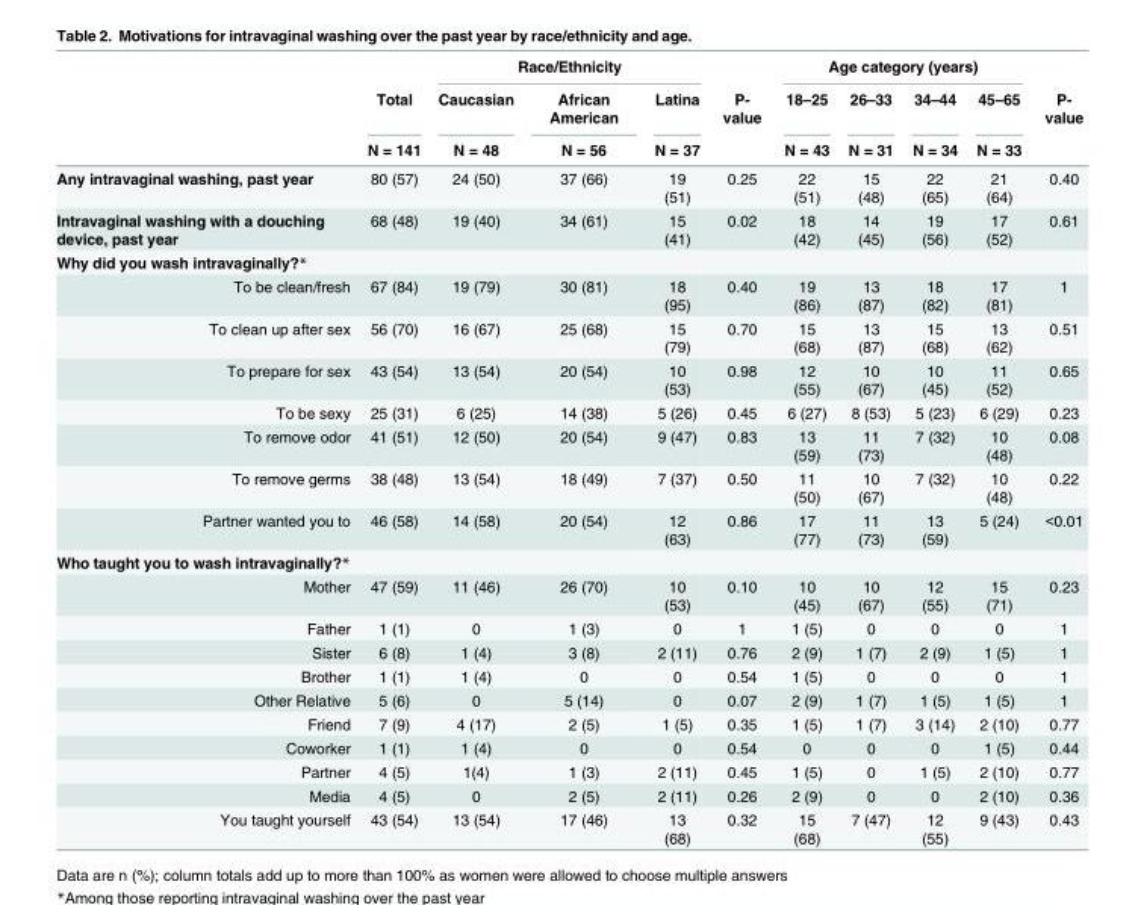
<table><thead><tr><td rowspan="3"></td><td rowspan="3">Total N = 141</td><td colspan="3">Race/Ethnicity</td><td rowspan="3">P- value</td><td colspan="4">Age category (years)</td><td rowspan="3">P- value</td></tr><tr><td rowspan="2">Caucasian N = 48</td><td rowspan="2">African American N = 56</td><td rowspan="2">Latina N = 37</td><td rowspan="2">18–25 N = 43</td><td rowspan="2">26–33 N = 31</td><td rowspan="2">34–44 N = 34</td><td rowspan="2">45–65 N = 33</td></tr><tr></tr></thead><tbody><tr><td>Any intravaginal washing, past year</td><td>80 (57)</td><td>24 (50)</td><td>37 (66)</td><td>19 (51)</td><td>0.25</td><td>22 (51)</td><td>15 (48)</td><td>22 (65)</td><td>21 (64)</td><td>0.40</td></tr><tr><td>Intravaginal washing with a douching device, past year</td><td>68 (48)</td><td>19 (40)</td><td>34 (61)</td><td>15 (41)</td><td>0.02</td><td>18 (42)</td><td>14 (45)</td><td>19 (56)</td><td>17 (52)</td><td>0.61</td></tr><tr><td colspan="11">Why did you wash intravaginally?*</td></tr><tr><td>To be clean/fresh</td><td>67 (84)</td><td>19 (79)</td><td>30 (81)</td><td>18 (95)</td><td>0.40</td><td>19 (86)</td><td>13 (87)</td><td>18 (82)</td><td>17 (81)</td><td>1</td></tr><tr><td>To clean up after sex</td><td>56 (70)</td><td>16 (67)</td><td>25 (68)</td><td>15 (79)</td><td>0.70</td><td>15 (68)</td><td>13 (87)</td><td>15 (68)</td><td>13 (62)</td><td>0.51</td></tr><tr><td>To prepare for sex</td><td>43 (54)</td><td>13 (54)</td><td>20 (54)</td><td>10 (53)</td><td>0.98</td><td>12 (55)</td><td>10 (67)</td><td>10 (45)</td><td>11 (52)</td><td>0.65</td></tr><tr><td>To be sexy</td><td>25 (31)</td><td>6 (25)</td><td>14 (38)</td><td>5 (26)</td><td>0.45</td><td>6 (27)</td><td>8 (53)</td><td>5 (23)</td><td>6 (29)</td><td>0.23</td></tr><tr><td>To remove odor</td><td>41 (51)</td><td>12 (50)</td><td>20 (54)</td><td>9 (47)</td><td>0.83</td><td>13 (59)</td><td>11 (73)</td><td>7 (32)</td><td>10 (48)</td><td>0.08</td></tr><tr><td>To remove germs</td><td>38 (48)</td><td>13 (54)</td><td>18 (49)</td><td>7 (37)</td><td>0.50</td><td>11 (50)</td><td>10 (67)</td><td>7 (32)</td><td>10 (48)</td><td>0.22</td></tr><tr><td>Partner wanted you to</td><td>46 (58)</td><td>14 (58)</td><td>20 (54)</td><td>12 (63)</td><td>0.86</td><td>17 (77)</td><td>11 (73)</td><td>13 (59)</td><td>5 (24)</td><td>&lt;0.01</td></tr><tr><td colspan="11">Who taught you to wash intravaginally?*</td></tr><tr><td>Mother</td><td>47 (59)</td><td>11 (46)</td><td>26 (70)</td><td>10 (53)</td><td>0.10</td><td>10 (45)</td><td>10 (67)</td><td>12 (55)</td><td>15 (71)</td><td>0.23</td></tr><tr><td>Father</td><td>1 (1)</td><td>0</td><td>1 (3)</td><td>0</td><td>1</td><td>1 (5)</td><td>0</td><td>0</td><td>0</td><td>1</td></tr><tr><td>Sister</td><td>6 (8)</td><td>1 (4)</td><td>3 (8)</td><td>2 (11)</td><td>0.76</td><td>2 (9)</td><td>1 (7)</td><td>2 (9)</td><td>1 (5)</td><td>1</td></tr><tr><td>Brother</td><td>1 (1)</td><td>1 (4)</td><td>0</td><td>0</td><td>0.54</td><td>1 (5)</td><td>0</td><td>0</td><td>0</td><td>1</td></tr><tr><td>Other Relative</td><td>5 (6)</td><td>0</td><td>5 (14)</td><td>0</td><td>0.07</td><td>2 (9)</td><td>1 (7)</td><td>1 (5)</td><td>1 (5)</td><td>1</td></tr><tr><td>Friend</td><td>7 (9)</td><td>4 (17)</td><td>2 (5)</td><td>1 (5)</td><td>0.35</td><td>1 (5)</td><td>1 (7)</td><td>3 (14)</td><td>2 (10)</td><td>0.77</td></tr><tr><td>Coworker</td><td>1 (1)</td><td>1 (4)</td><td>0</td><td>0</td><td>0.54</td><td>0</td><td>0</td><td>0</td><td>1 (5)</td><td>0.44</td></tr><tr><td>Partner</td><td>4 (5)</td><td>1(4)</td><td>1 (3)</td><td>2 (11)</td><td>0.45</td><td>1 (5)</td><td>0</td><td>1 (5)</td><td>2 (10)</td><td>0.77</td></tr><tr><td>Media</td><td>4 (5)</td><td>0</td><td>2 (5)</td><td>2 (11)</td><td>0.26</td><td>2 (9)</td><td>0</td><td>0</td><td>2 (10)</td><td>0.36</td></tr><tr><td>You taught yourself</td><td>43 (54)</td><td>13 (54)</td><td>17 (46)</td><td>13 (68)</td><td>0.32</td><td>15 (68)</td><td>7 (47)</td><td>12 (55)</td><td>9 (43)</td><td>0.43</td></tr></tbody></table>